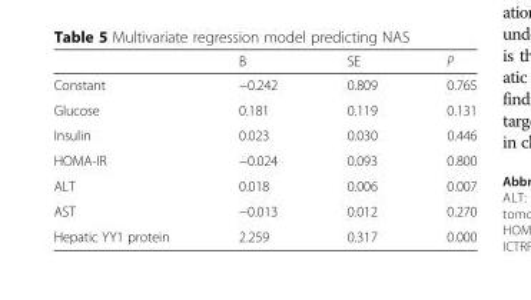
<table><thead><tr><td></td><td>B</td><td>SE</td><td>P</td></tr></thead><tbody><tr><td>Constant</td><td>−0.242</td><td>0.809</td><td>0.765</td></tr><tr><td>Glucose</td><td>0.181</td><td>0.119</td><td>0.131</td></tr><tr><td>Insulin</td><td>0.023</td><td>0.030</td><td>0.446</td></tr><tr><td>HOMA-IR</td><td>−0.024</td><td>0.093</td><td>0.800</td></tr><tr><td>ALT</td><td>0.018</td><td>0.006</td><td>0.007</td></tr><tr><td>AST</td><td>−0.013</td><td>0.012</td><td>0.270</td></tr><tr><td>Hepatic YY1 protein</td><td>2.259</td><td>0.317</td><td>0.000</td></tr></tbody></table>